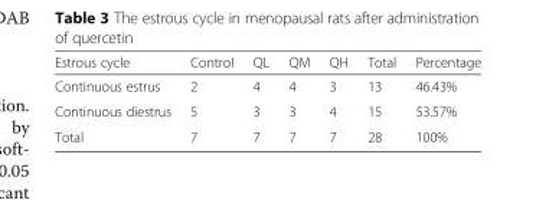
<table><thead><tr><td>Estrous cycle</td><td>Control</td><td>QL</td><td>QM</td><td>QH</td><td>Total</td><td>Percentage</td></tr></thead><tbody><tr><td>Continuous estrus</td><td>2</td><td>4</td><td>4</td><td>3</td><td>13</td><td>46.43%</td></tr><tr><td>Continuous diestrus</td><td>5</td><td>3</td><td>3</td><td>4</td><td>15</td><td>53.57%</td></tr><tr><td>Total</td><td>7</td><td>7</td><td>7</td><td>7</td><td>28</td><td>100%</td></tr></tbody></table>